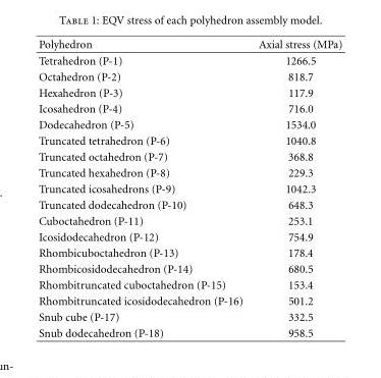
<table><thead><tr><td>Polyhedron</td><td>Axial stress (MPa)</td></tr></thead><tbody><tr><td>Tetrahedron (P-1)</td><td>1266.5</td></tr><tr><td>Octahedron (P-2)</td><td>818.7</td></tr><tr><td>Hexahedron (P-3)</td><td>117.9</td></tr><tr><td>Icosahedron (P-4)</td><td>716.0</td></tr><tr><td>Dodecahedron (P-5)</td><td>1534.0</td></tr><tr><td>Truncated tetrahedron (P-6)</td><td>1040.8</td></tr><tr><td>Truncated octahedron (P-7)</td><td>368.8</td></tr><tr><td>Truncated hexahedron (P-8)</td><td>229.3</td></tr><tr><td>Truncated icosahedrons (P-9)</td><td>1042.3</td></tr><tr><td>Truncated dodecahedron (P-10)</td><td>648.3</td></tr><tr><td>Cuboctahedron (P-11)</td><td>253.1</td></tr><tr><td>Icosidodecahedron (P-12)</td><td>754.9</td></tr><tr><td>Rhombicuboctahedron (P-13)</td><td>178.4</td></tr><tr><td>Rhombicosidodecahedron (P-14)</td><td>680.5</td></tr><tr><td>Rhombitruncated cuboctahedron (P-15)</td><td>153.4</td></tr><tr><td>Rhombitruncated icosidodecahedron (P-16)</td><td>501.2</td></tr><tr><td>Snub cube (P-17)</td><td>332.5</td></tr><tr><td>Snub dodecahedron (P-18)</td><td>958.5</td></tr></tbody></table>